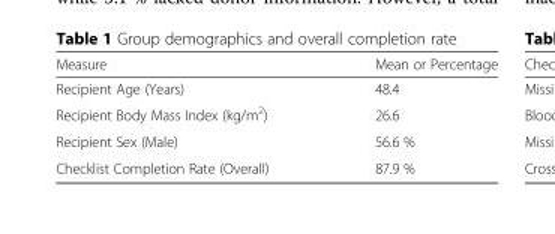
<table><thead><tr><td>Measure</td><td>Mean or Percentage</td></tr></thead><tbody><tr><td>Recipient Age (Years)</td><td>48.4</td></tr><tr><td>Recipient Body Mass Index (kg/m<sup>2</sup>)</td><td>26.6</td></tr><tr><td>Recipient Sex (Male)</td><td>56.6 %</td></tr><tr><td>Checklist Completion Rate (Overall)</td><td>87.9 %</td></tr></tbody></table>